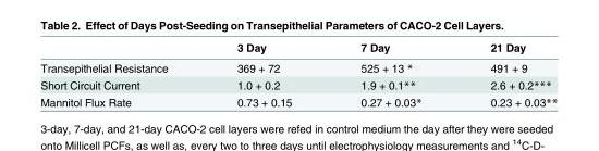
<table><thead><tr><td></td><td>3 Day</td><td>7 Day</td><td>21 Day</td></tr></thead><tbody><tr><td>Transepithelial Resistance</td><td>369 + 72</td><td>525 + 13 *</td><td>491 + 9</td></tr><tr><td>Short Circuit Current</td><td>1.0 + 0.2</td><td>1.9 + 0.1**</td><td>2.6 + 0.2***</td></tr><tr><td>Mannitol Flux Rate</td><td>0.73 + 0.15</td><td>0.27 + 0.03*</td><td>0.23 + 0.03**</td></tr></tbody></table>